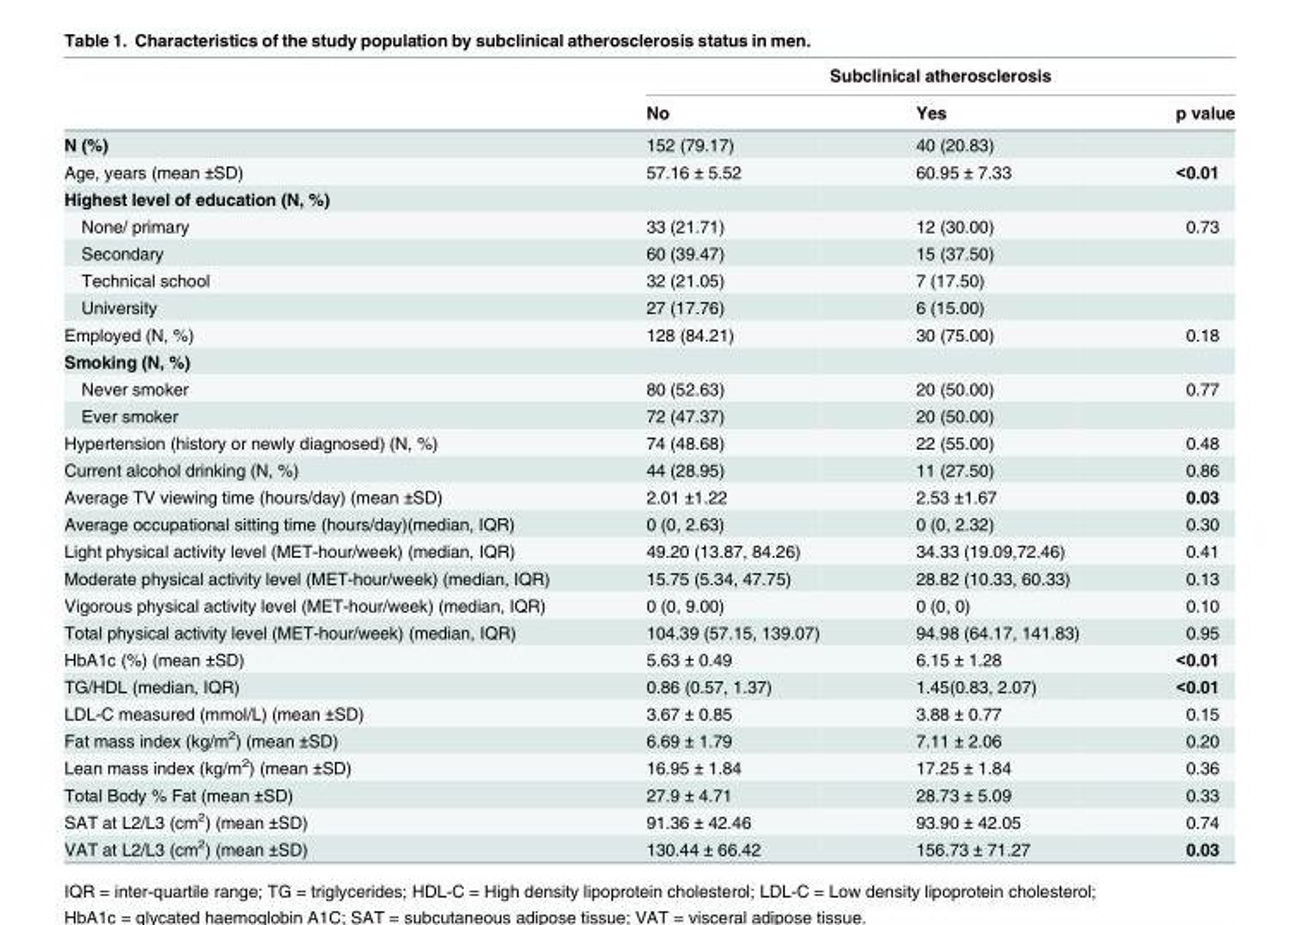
<table><thead><tr><td rowspan="2"></td><td colspan="3">Subclinical atherosclerosis</td></tr><tr><td>No</td><td>Yes</td><td>p value</td></tr></thead><tbody><tr><td>N (%)</td><td>152 (79.17)</td><td>40 (20.83)</td><td></td></tr><tr><td>Age, years (mean ±SD)</td><td>57.16 ± 5.52</td><td>60.95 ± 7.33</td><td>&lt;0.01</td></tr><tr><td colspan="4">Highest level of education (N, %)</td></tr><tr><td>None/ primary</td><td>33 (21.71)</td><td>12 (30.00)</td><td>0.73</td></tr><tr><td>Secondary</td><td>60 (39.47)</td><td>15 (37.50)</td><td></td></tr><tr><td>Technical school</td><td>32 (21.05)</td><td>7 (17.50)</td><td></td></tr><tr><td>University</td><td>27 (17.76)</td><td>6 (15.00)</td><td></td></tr><tr><td>Employed (N, %)</td><td>128 (84.21)</td><td>30 (75.00)</td><td>0.18</td></tr><tr><td colspan="4">Smoking (N, %)</td></tr><tr><td>Never smoker</td><td>80 (52.63)</td><td>20 (50.00)</td><td>0.77</td></tr><tr><td>Ever smoker</td><td>72 (47.37)</td><td>20 (50.00)</td><td></td></tr><tr><td>Hypertension (history or newly diagnosed) (N, %)</td><td>74 (48.68)</td><td>22 (55.00)</td><td>0.48</td></tr><tr><td>Current alcohol drinking (N, %)</td><td>44 (28.95)</td><td>11 (27.50)</td><td>0.86</td></tr><tr><td>Average TV viewing time (hours/day) (mean ±SD)</td><td>2.01 ±1.22</td><td>2.53 ±1.67</td><td>0.03</td></tr><tr><td>Average occupational sitting time (hours/day)(median, IQR)</td><td>0 (0, 2.63)</td><td>0 (0, 2.32)</td><td>0.30</td></tr><tr><td>Light physical activity level (MET-hour/week) (median, IQR)</td><td>49.20 (13.87, 84.26)</td><td>34.33 (19.09,72.46)</td><td>0.41</td></tr><tr><td>Moderate physical activity level (MET-hour/week) (median, IQR)</td><td>15.75 (5.34, 47.75)</td><td>28.82 (10.33, 60.33)</td><td>0.13</td></tr><tr><td>Vigorous physical activity level (MET-hour/week) (median, IQR)</td><td>0 (0, 9.00)</td><td>0 (0, 0)</td><td>0.10</td></tr><tr><td>Total physical activity level (MET-hour/week) (median, IQR)</td><td>104.39 (57.15, 139.07)</td><td>94.98 (64.17, 141.83)</td><td>0.95</td></tr><tr><td>HbA1c (%) (mean ±SD)</td><td>5.63 ± 0.49</td><td>6.15 ± 1.28</td><td>&lt;0.01</td></tr><tr><td>TG/HDL (median, IQR)</td><td>0.86 (0.57, 1.37)</td><td>1.45(0.83, 2.07)</td><td>&lt;0.01</td></tr><tr><td>LDL-C measured (mmol/L) (mean ±SD)</td><td>3.67 ± 0.85</td><td>3.88 ± 0.77</td><td>0.15</td></tr><tr><td>Fat mass index (kg/m<sup>2</sup>) (mean ±SD)</td><td>6.69 ± 1.79</td><td>7.11 ± 2.06</td><td>0.20</td></tr><tr><td>Lean mass index (kg/m<sup>2</sup>) (mean ±SD)</td><td>16.95 ± 1.84</td><td>17.25 ± 1.84</td><td>0.36</td></tr><tr><td>Total Body % Fat (mean ±SD)</td><td>27.9 ± 4.71</td><td>28.73 ± 5.09</td><td>0.33</td></tr><tr><td>SAT at L2/L3 (cm<sup>2</sup>) (mean ±SD)</td><td>91.36 ± 42.46</td><td>93.90 ± 42.05</td><td>0.74</td></tr><tr><td>VAT at L2/L3 (cm<sup>2</sup>) (mean ±SD)</td><td>130.44 ± 66.42</td><td>156.73 ± 71.27</td><td>0.03</td></tr></tbody></table>